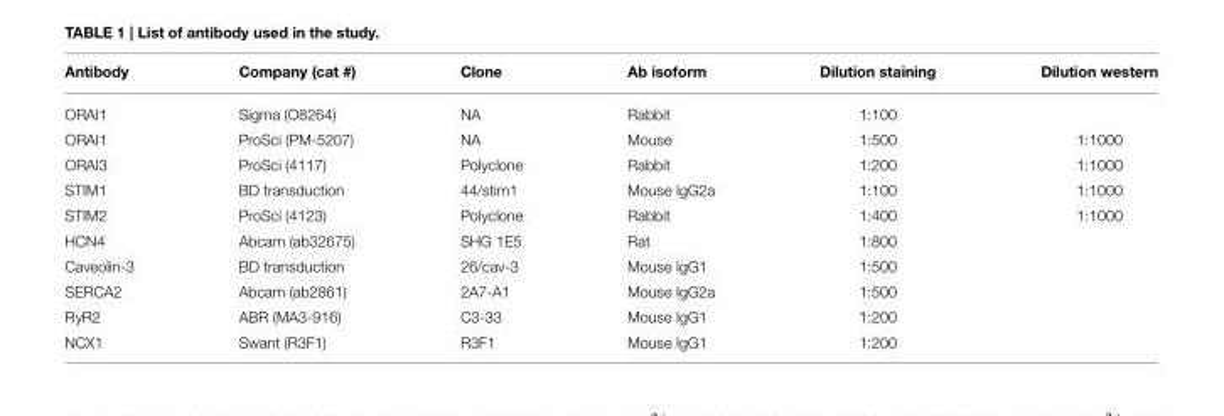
<table><thead><tr><td>Antibody</td><td>Company (cat #)</td><td>Clone</td><td>Ab isoform</td><td>Dilution staining</td><td>Dilution western</td></tr></thead><tbody><tr><td>ORAI1</td><td>Sigma (O8264)</td><td>NA</td><td>Rabbit</td><td>1:100</td><td></td></tr><tr><td>ORAI1</td><td>ProSci (PM-5207)</td><td>NA</td><td>Mouse</td><td>1:500</td><td>1:1000</td></tr><tr><td>ORAI3</td><td>ProSci (4117)</td><td>Polyclone</td><td>Rabbit</td><td>1:200</td><td>1:1000</td></tr><tr><td>STIM1</td><td>BD transduction</td><td>44/stim1</td><td>Mouse IgG2a</td><td>1:100</td><td>1:1000</td></tr><tr><td>STIM2</td><td>ProSci (4123)</td><td>Polyclone</td><td>Rabbit</td><td>1:400</td><td>1:1000</td></tr><tr><td>HCN4</td><td>Abcam (ab32675)</td><td>SHG 1E5</td><td>Rat</td><td>1:800</td><td></td></tr><tr><td>Caveolin-3</td><td>BD transduction</td><td>26/cav-3</td><td>Mouse IgG1</td><td>1:500</td><td></td></tr><tr><td>SERCA2</td><td>Abcam (ab2861)</td><td>2A7-A1</td><td>Mouse IgG2a</td><td>1:500</td><td></td></tr><tr><td>RyR2</td><td>ABR (MA3-916)</td><td>C3-33</td><td>Mouse IgG1</td><td>1:200</td><td></td></tr><tr><td>NCX1</td><td>Swant (R3F1)</td><td>R3F1</td><td>Mouse IgG1</td><td>1:200</td><td></td></tr></tbody></table>